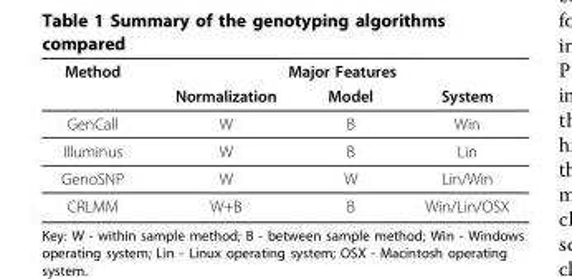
<table><thead><tr><td rowspan="2">Method</td><td colspan="3">Major Features</td></tr><tr><td>Normalization</td><td>Model</td><td>System</td></tr></thead><tbody><tr><td>GenCall</td><td>W</td><td>B</td><td>Win</td></tr><tr><td>Illuminus</td><td>W</td><td>B</td><td>Lin</td></tr><tr><td>GenoSNP</td><td>W</td><td>W</td><td>Lin/Win</td></tr><tr><td>CRLMM</td><td>W+B</td><td>B</td><td>Win/Lin/OSX</td></tr></tbody></table>